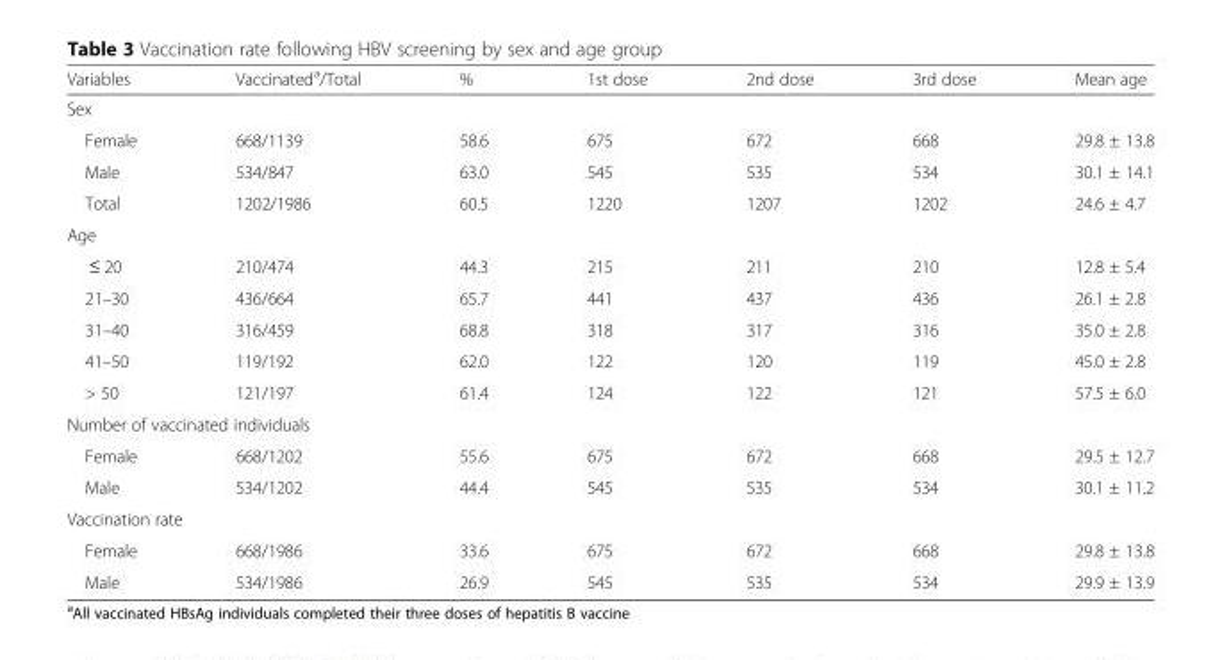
<table><thead><tr><td>Variables</td><td>Vaccinated<sup>a</sup>/Total</td><td>%</td><td>1st dose</td><td>2nd dose</td><td>3rd dose</td><td>Mean age</td></tr></thead><tbody><tr><td colspan="7">Sex</td></tr><tr><td>Female</td><td>668/1139</td><td>58.6</td><td>675</td><td>672</td><td>668</td><td>29.8 ± 13.8</td></tr><tr><td>Male</td><td>534/847</td><td>63.0</td><td>545</td><td>535</td><td>534</td><td>30.1 ± 14.1</td></tr><tr><td>Total</td><td>1202/1986</td><td>60.5</td><td>1220</td><td>1207</td><td>1202</td><td>24.6 ± 4.7</td></tr><tr><td colspan="7">Age</td></tr><tr><td>≤ 20</td><td>210/474</td><td>44.3</td><td>215</td><td>211</td><td>210</td><td>12.8 ± 5.4</td></tr><tr><td>21–30</td><td>436/664</td><td>65.7</td><td>441</td><td>437</td><td>436</td><td>26.1 ± 2.8</td></tr><tr><td>31–40</td><td>316/459</td><td>68.8</td><td>318</td><td>317</td><td>316</td><td>35.0 ± 2.8</td></tr><tr><td>41–50</td><td>119/192</td><td>62.0</td><td>122</td><td>120</td><td>119</td><td>45.0 ± 2.8</td></tr><tr><td>&gt; 50</td><td>121/197</td><td>61.4</td><td>124</td><td>122</td><td>121</td><td>57.5 ± 6.0</td></tr><tr><td colspan="7">Number of vaccinated individuals</td></tr><tr><td>Female</td><td>668/1202</td><td>55.6</td><td>675</td><td>672</td><td>668</td><td>29.5 ± 12.7</td></tr><tr><td>Male</td><td>534/1202</td><td>44.4</td><td>545</td><td>535</td><td>534</td><td>30.1 ± 11.2</td></tr><tr><td colspan="7">Vaccination rate</td></tr><tr><td>Female</td><td>668/1986</td><td>33.6</td><td>675</td><td>672</td><td>668</td><td>29.8 ± 13.8</td></tr><tr><td>Male</td><td>534/1986</td><td>26.9</td><td>545</td><td>535</td><td>534</td><td>29.9 ± 13.9</td></tr></tbody></table>